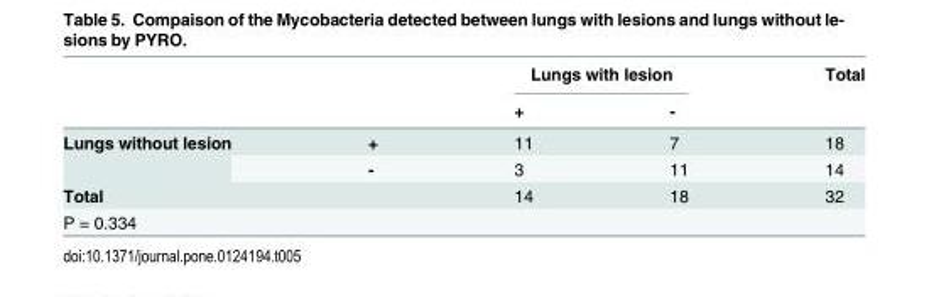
<table><thead><tr><td rowspan="2"></td><td rowspan="2"></td><td colspan="2">Lungs with lesion</td><td rowspan="2">Total</td></tr><tr><td>+</td><td>-</td></tr></thead><tbody><tr><td rowspan="2">Lungs without lesion</td><td>+</td><td>11</td><td>7</td><td>18</td></tr><tr><td>-</td><td>3</td><td>11</td><td>14</td></tr><tr><td>Total</td><td></td><td>14</td><td>18</td><td>32</td></tr><tr><td>P = 0.334</td><td></td><td></td><td></td><td></td></tr></tbody></table>